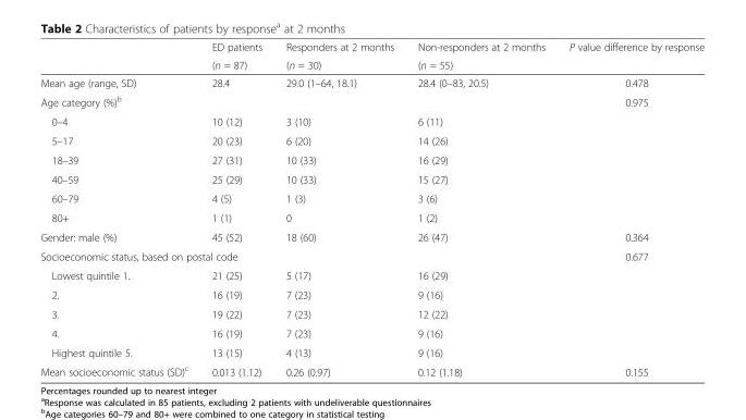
<table><thead><tr><td rowspan="2"></td><td rowspan="2">ED patients (n = 87)</td><td rowspan="2">Responders at 2 months (n = 30)</td><td rowspan="2">Non-responders at 2 months (n = 55)</td><td rowspan="2">P value difference by response</td></tr><tr></tr></thead><tbody><tr><td>Mean age (range, SD)</td><td>28.4</td><td>29.0 (1–64, 18.1)</td><td>28.4 (0–83, 20.5)</td><td>0.478</td></tr><tr><td colspan="4">Age category (%)<sup>b</sup></td><td>0.975</td></tr><tr><td>0–4</td><td>10 (12)</td><td>3 (10)</td><td>6 (11)</td><td></td></tr><tr><td>5–17</td><td>20 (23)</td><td>6 (20)</td><td>14 (26)</td><td></td></tr><tr><td>18–39</td><td>27 (31)</td><td>10 (33)</td><td>16 (29)</td><td></td></tr><tr><td>40–59</td><td>25 (29)</td><td>10 (33)</td><td>15 (27)</td><td></td></tr><tr><td>60–79</td><td>4 (5)</td><td>1 (3)</td><td>3 (6)</td><td></td></tr><tr><td>80+</td><td>1 (1)</td><td>0</td><td>1 (2)</td><td></td></tr><tr><td>Gender: male (%)</td><td>45 (52)</td><td>18 (60)</td><td>26 (47)</td><td>0.364</td></tr><tr><td colspan="4">Socioeconomic status, based on postal code</td><td>0.677</td></tr><tr><td>Lowest quintile 1.</td><td>21 (25)</td><td>5 (17)</td><td>16 (29)</td><td></td></tr><tr><td>2.</td><td>16 (19)</td><td>7 (23)</td><td>9 (16)</td><td></td></tr><tr><td>3.</td><td>19 (22)</td><td>7 (23)</td><td>12 (22)</td><td></td></tr><tr><td>4.</td><td>16 (19)</td><td>7 (23)</td><td>9 (16)</td><td></td></tr><tr><td>Highest quintile 5.</td><td>13 (15)</td><td>4 (13)</td><td>9 (16)</td><td></td></tr><tr><td>Mean socioeconomic status (SD)<sup>c</sup></td><td>0.013 (1.12)</td><td>0.26 (0.97)</td><td>0.12 (1.18)</td><td>0.155</td></tr></tbody></table>